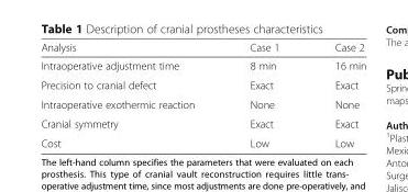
<table><thead><tr><td>Analysis</td><td>Case 1</td><td>Case 2</td></tr></thead><tbody><tr><td>Intraoperative adjustment time</td><td>8 min</td><td>16 min</td></tr><tr><td>Precision to cranial defect</td><td>Exact</td><td>Exact</td></tr><tr><td>Intraoperative exothermic reaction</td><td>None</td><td>None</td></tr><tr><td>Cranial symmetry</td><td>Exact</td><td>Exact</td></tr><tr><td>Cost</td><td>Low</td><td>Low</td></tr></tbody></table>